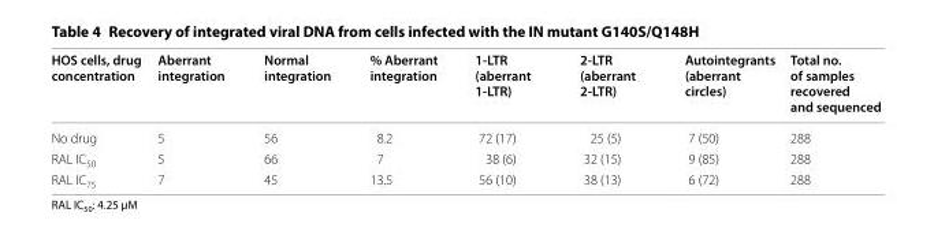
<table><thead><tr><td>HOS cells, drug concentration</td><td>Aberrant integration</td><td>Normal integration</td><td>% Aberrant integration</td><td>1‑LTR (aberrant 1‑LTR)</td><td>2‑LTR (aberrant 2‑LTR)</td><td>Autointegrants (aberrant circles)</td><td>Total no. of samples recovered and sequenced</td></tr></thead><tbody><tr><td>No drug</td><td>5</td><td>56</td><td>8.2</td><td>72 (17)</td><td>25 (5)</td><td>7 (50)</td><td>288</td></tr><tr><td>RAL IC<sub>50</sub></td><td>5</td><td>66</td><td>7</td><td>38 (6)</td><td>32 (15)</td><td>9 (85)</td><td>288</td></tr><tr><td>RAL IC<sub>75</sub></td><td>7</td><td>45</td><td>13.5</td><td>56 (10)</td><td>38 (13)</td><td>6 (72)</td><td>288</td></tr></tbody></table>